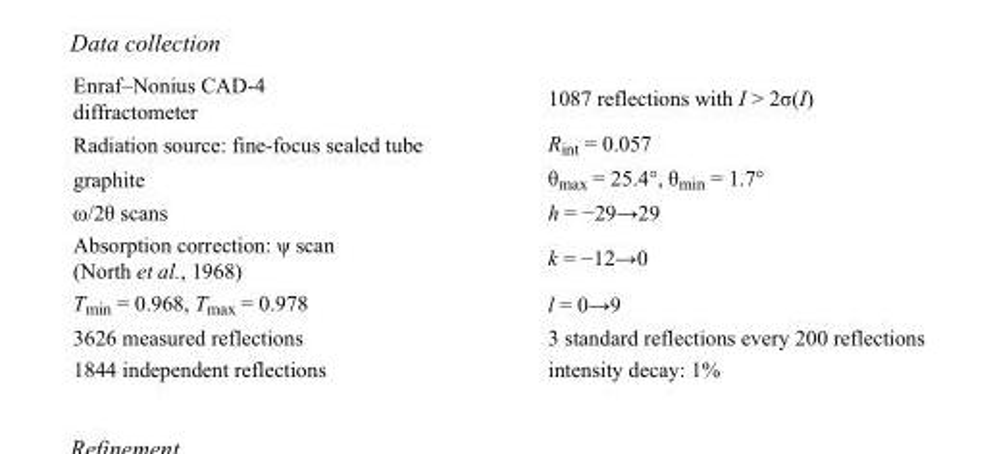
<table><tbody><tr><td>Enraf–Nonius CAD-4 diffractometer</td><td>1087 reflections with I &gt; 2σ(I)</td></tr><tr><td>Radiation source: fine-focus sealed tube</td><td>R<sub>int</sub> = 0.057</td></tr><tr><td>graphite</td><td>θ<sub>max</sub> = 25.4°, θ<sub>min</sub> = 1.7°</td></tr><tr><td>ω/2θ scans</td><td>h = −29→29</td></tr><tr><td>Absorption correction: ψ scan (North et al., 1968)</td><td>k = −12→0</td></tr><tr><td>T<sub>min</sub> = 0.968, T<sub>max</sub> = 0.978</td><td>l = 0→9</td></tr><tr><td>3626 measured reflections</td><td>3 standard reflections every 200 reflections</td></tr><tr><td>1844 independent reflections</td><td>intensity decay: 1%</td></tr></tbody></table>